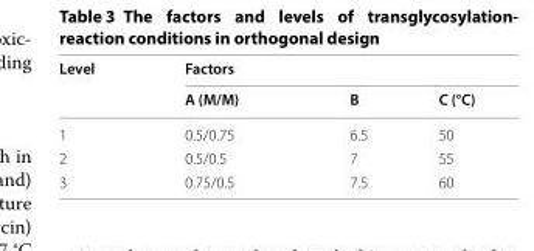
<table><thead><tr><td rowspan="2">Level</td><td colspan="3">Factors</td></tr><tr><td>A (M/M)</td><td>B</td><td>C (°C)</td></tr></thead><tbody><tr><td>1</td><td>0.5/0.75</td><td>6.5</td><td>50</td></tr><tr><td>2</td><td>0.5/0.5</td><td>7</td><td>55</td></tr><tr><td>3</td><td>0.75/0.5</td><td>7.5</td><td>60</td></tr></tbody></table>